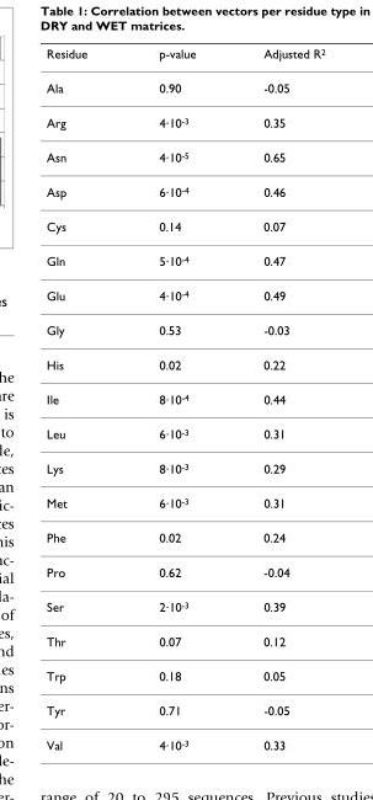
<table><thead><tr><td>Residue</td><td>p-value</td><td>Adjusted R<sup>2</sup></td></tr></thead><tbody><tr><td>Ala</td><td>0.90</td><td>-0.05</td></tr><tr><td>Arg</td><td>4·10<sup>-3</sup></td><td>0.35</td></tr><tr><td>Asn</td><td>4·10<sup>-5</sup></td><td>0.65</td></tr><tr><td>Asp</td><td>6·10<sup>-4</sup></td><td>0.46</td></tr><tr><td>Cys</td><td>0.14</td><td>0.07</td></tr><tr><td>Gln</td><td>5·10<sup>-4</sup></td><td>0.47</td></tr><tr><td>Glu</td><td>4·10<sup>-4</sup></td><td>0.49</td></tr><tr><td>Gly</td><td>0.53</td><td>-0.03</td></tr><tr><td>His</td><td>0.02</td><td>0.22</td></tr><tr><td>Ile</td><td>8·10<sup>-4</sup></td><td>0.44</td></tr><tr><td>Leu</td><td>6·10<sup>-3</sup></td><td>0.31</td></tr><tr><td>Lys</td><td>8·10<sup>-3</sup></td><td>0.29</td></tr><tr><td>Met</td><td>6·10<sup>-3</sup></td><td>0.31</td></tr><tr><td>Phe</td><td>0.02</td><td>0.24</td></tr><tr><td>Pro</td><td>0.62</td><td>-0.04</td></tr><tr><td>Ser</td><td>2·10<sup>-3</sup></td><td>0.39</td></tr><tr><td>Thr</td><td>0.07</td><td>0.12</td></tr><tr><td>Trp</td><td>0.18</td><td>0.05</td></tr><tr><td>Tyr</td><td>0.71</td><td>-0.05</td></tr><tr><td>Val</td><td>4·10<sup>-3</sup></td><td>0.33</td></tr></tbody></table>